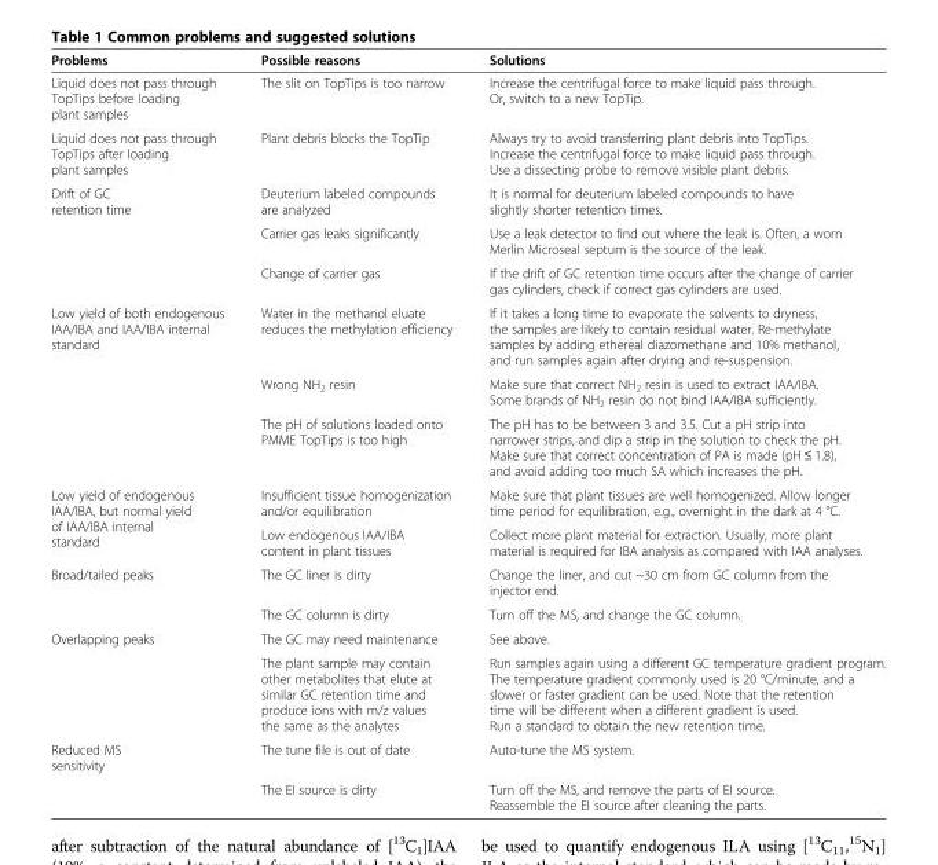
<table><thead><tr><td>Problems</td><td>Possible reasons</td><td>Solutions</td></tr></thead><tbody><tr><td>Liquid does not pass through TopTips before loading plant samples</td><td>The slit on TopTips is too narrow</td><td>Increase the centrifugal force to make liquid pass through. Or, switch to a new TopTip.</td></tr><tr><td>Liquid does not pass through TopTips after loading plant samples</td><td>Plant debris blocks the TopTip</td><td>Always try to avoid transferring plant debris into TopTips. Increase the centrifugal force to make liquid pass through. Use a dissecting probe to remove visible plant debris.</td></tr><tr><td rowspan="3">Drift of GC retention time</td><td>Deuterium labeled compounds are analyzed</td><td>It is normal for deuterium labeled compounds to have slightly shorter retention times.</td></tr><tr><td>Carrier gas leaks significantly</td><td>Use a leak detector to find out where the leak is. Often, a worn Merlin Microseal septum is the source of the leak.</td></tr><tr><td>Change of carrier gas</td><td>If the drift of GC retention time occurs after the change of carrier gas cylinders, check if correct gas cylinders are used.</td></tr><tr><td rowspan="3">Low yield of both endogenous IAA/IBA and IAA/IBA internal standard</td><td>Water in the methanol eluate reduces the methylation efficiency</td><td>If it takes a long time to evaporate the solvents to dryness, the samples are likely to contain residual water. Re-methylate samples by adding ethereal diazomethane and 10% methanol, and run samples again after drying and re-suspension.</td></tr><tr><td>Wrong NH<sub>2</sub> resin</td><td>Make sure that correct NH<sub>2</sub> resin is used to extract IAA/IBA. Some brands of NH<sub>2</sub> resin do not bind IAA/IBA sufficiently.</td></tr><tr><td>The pH of solutions loaded onto PMME TopTips is too high</td><td>The pH has to be between 3 and 3.5. Cut a pH strip into narrower strips, and dip a strip in the solution to check the pH. Make sure that correct concentration of PA is made (pH ≤ 1.8), and avoid adding too much SA which increases the pH.</td></tr><tr><td rowspan="2">Low yield of endogenous IAA/IBA, but normal yield of IAA/IBA internal standard</td><td>Insufficient tissue homogenization and/or equilibration</td><td>Make sure that plant tissues are well homogenized. Allow longer time period for equilibration, e.g., overnight in the dark at 4 °C.</td></tr><tr><td>Low endogenous IAA/IBA content in plant tissues</td><td>Collect more plant material for extraction. Usually, more plant material is required for IBA analysis as compared with IAA analyses.</td></tr><tr><td rowspan="2">Broad/tailed peaks</td><td>The GC liner is dirty</td><td>Change the liner, and cut ~30 cm from GC column from the injector end.</td></tr><tr><td>The GC column is dirty</td><td>Turn off the MS, and change the GC column.</td></tr><tr><td rowspan="2">Overlapping peaks</td><td>The GC may need maintenance</td><td>See above.</td></tr><tr><td>The plant sample may contain other metabolites that elute at similar GC retention time and produce ions with m/z values the same as the analytes</td><td>Run samples again using a different GC temperature gradient program. The temperature gradient commonly used is 20 °C/minute, and a slower or faster gradient can be used. Note that the retention time will be different when a different gradient is used. Run a standard to obtain the new retention time.</td></tr><tr><td rowspan="2">Reduced MS sensitivity</td><td>The tune file is out of date</td><td>Auto-tune the MS system.</td></tr><tr><td>The EI source is dirty</td><td>Turn off the MS, and remove the parts of EI source. Reassemble the EI source after cleaning the parts.</td></tr></tbody></table>